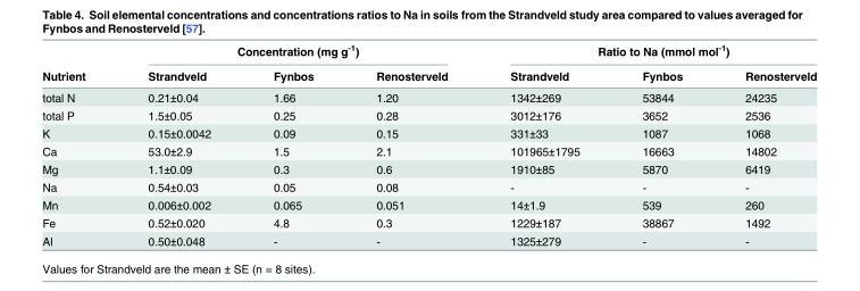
<table><thead><tr><td rowspan="2">Nutrient</td><td colspan="3">Concentration (mg g<sup>-1</sup>)</td><td colspan="3">Ratio to Na (mmol mol<sup>-1</sup>)</td></tr><tr><td>Strandveld</td><td>Fynbos</td><td>Renosterveld</td><td>Strandveld</td><td>Fynbos</td><td>Renosterveld</td></tr></thead><tbody><tr><td>total N</td><td>0.21±0.04</td><td>1.66</td><td>1.20</td><td>1342±269</td><td>53844</td><td>24235</td></tr><tr><td>total P</td><td>1.5±0.05</td><td>0.25</td><td>0.28</td><td>3012±176</td><td>3652</td><td>2536</td></tr><tr><td>K</td><td>0.15±0.0042</td><td>0.09</td><td>0.15</td><td>331±33</td><td>1087</td><td>1068</td></tr><tr><td>Ca</td><td>53.0±2.9</td><td>1.5</td><td>2.1</td><td>101965±1795</td><td>16663</td><td>14802</td></tr><tr><td>Mg</td><td>1.1±0.09</td><td>0.3</td><td>0.6</td><td>1910±85</td><td>5870</td><td>6419</td></tr><tr><td>Na</td><td>0.54±0.03</td><td>0.05</td><td>0.08</td><td>-</td><td>-</td><td>-</td></tr><tr><td>Mn</td><td>0.006±0.002</td><td>0.065</td><td>0.051</td><td>14±1.9</td><td>539</td><td>260</td></tr><tr><td>Fe</td><td>0.52±0.020</td><td>4.8</td><td>0.3</td><td>1229±187</td><td>38867</td><td>1492</td></tr><tr><td>Al</td><td>0.50±0.048</td><td>-</td><td>-</td><td>1325±279</td><td>-</td><td>-</td></tr></tbody></table>